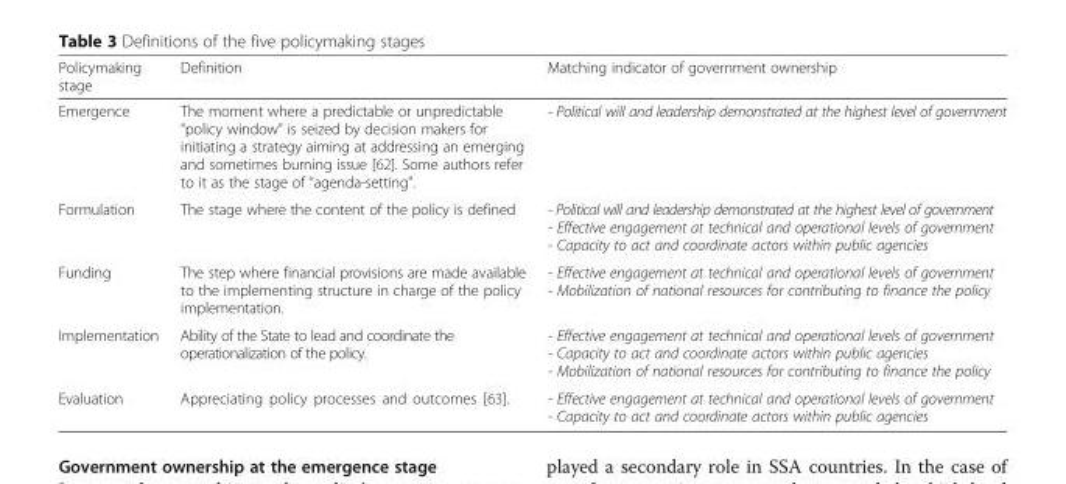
<table><thead><tr><td>Policymaking stage</td><td>Definition</td><td>Matching indicator of government ownership</td></tr></thead><tbody><tr><td>Emergence</td><td>The moment where a predictable or unpredictable “policy window” is seized by decision makers for initiating a strategy aiming at addressing an emerging and sometimes burning issue [62]. Some authors refer to it as the stage of “agenda-setting”.</td><td>- Political will and leadership demonstrated at the highest level of government</td></tr><tr><td>Formulation</td><td>The stage where the content of the policy is defined</td><td>- Political will and leadership demonstrated at the highest level of government - Effective engagement at technical and operational levels of government - Capacity to act and coordinate actors within public agencies</td></tr><tr><td>Funding</td><td>The step where financial provisions are made available to the implementing structure in charge of the policy implementation.</td><td>- Effective engagement at technical and operational levels of government - Mobilization of national resources for contributing to finance the policy</td></tr><tr><td>Implementation</td><td>Ability of the State to lead and coordinate the operationalization of the policy.</td><td>- Effective engagement at technical and operational levels of government - Capacity to act and coordinate actors within public agencies - Mobilization of national resources for contributing to finance the policy</td></tr><tr><td>Evaluation</td><td>Appreciating policy processes and outcomes [63].</td><td>- Effective engagement at technical and operational levels of government - Capacity to act and coordinate actors within public agencies</td></tr></tbody></table>